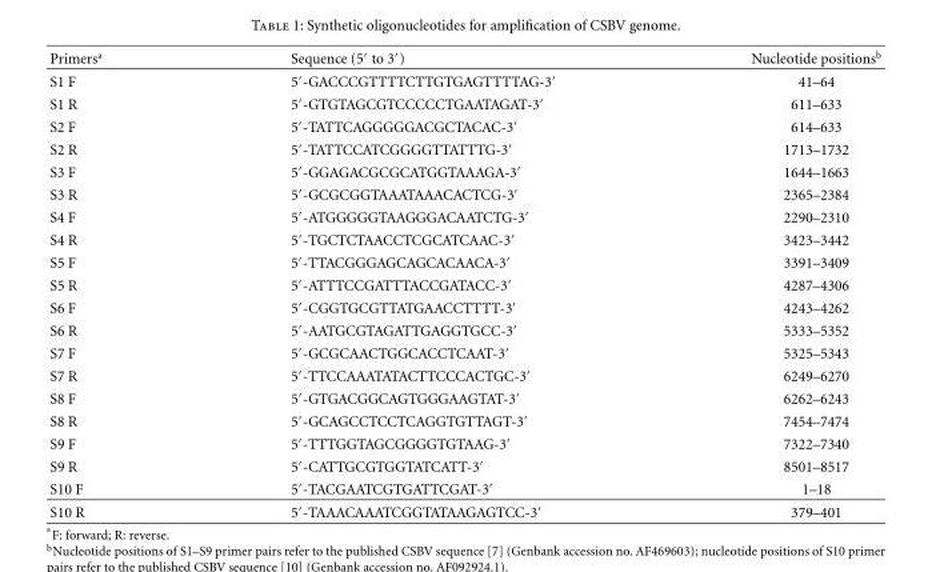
<table><thead><tr><td>Primers<sup>a</sup></td><td>Sequence (5′ to 3′)</td><td>Nucleotide positions<sup>b</sup></td></tr></thead><tbody><tr><td>S1 F</td><td>5′-GACCCGTTTTCTTGTGAGTTTTAG-3′</td><td>41–64</td></tr><tr><td>S1 R</td><td>5′-GTGTAGCGTCCCCCTGAATAGAT-3′</td><td>611–633</td></tr><tr><td>S2 F</td><td>5′-TATTCAGGGGGACGCTACAC-3′</td><td>614–633</td></tr><tr><td>S2 R</td><td>5′-TATTCCATCGGGGTTATTTG-3′</td><td>1713–1732</td></tr><tr><td>S3 F</td><td>5′-GGAGACGCGCATGGTAAAGA-3′</td><td>1644–1663</td></tr><tr><td>S3 R</td><td>5′-GCGCGGTAAATAAACACTCG-3′</td><td>2365–2384</td></tr><tr><td>S4 F</td><td>5′-ATGGGGGTAAGGGACAATCTG-3′</td><td>2290–2310</td></tr><tr><td>S4 R</td><td>5′-TGCTCTAACCTCGCATCAAC-3′</td><td>3423–3442</td></tr><tr><td>S5 F</td><td>5′-TTACGGGAGCAGCACAACA-3′</td><td>3391–3409</td></tr><tr><td>S5 R</td><td>5′-ATTTCCGATTTACCGATACC-3′</td><td>4287–4306</td></tr><tr><td>S6 F</td><td>5′-CGGTGCGTTATGAACCTTTT-3′</td><td>4243–4262</td></tr><tr><td>S6 R</td><td>5′-AATGCGTAGATTGAGGTGCC-3′</td><td>5333–5352</td></tr><tr><td>S7 F</td><td>5′-GCGCAACTGGCACCTCAAT-3′</td><td>5325–5343</td></tr><tr><td>S7 R</td><td>5′-TTCCAAATATACTTCCCACTGC-3′</td><td>6249–6270</td></tr><tr><td>S8 F</td><td>5′-GTGACGGCAGTGGGAAGTAT-3′</td><td>6262–6243</td></tr><tr><td>S8 R</td><td>5′-GCAGCCTCCTCAGGTGTTAGT-3′</td><td>7454–7474</td></tr><tr><td>S9 F</td><td>5′-TTTGGTAGCGGGGTGTAAG-3′</td><td>7322–7340</td></tr><tr><td>S9 R</td><td>5′-CATTGCGTGGTATCATT-3′</td><td>8501–8517</td></tr><tr><td>S10 F</td><td>5′-TACGAATCGTGATTCGAT-3′</td><td>1–18</td></tr><tr><td>S10 R</td><td>5′-TAAACAAATCGGTATAAGAGTCC-3′</td><td>379–401</td></tr></tbody></table>